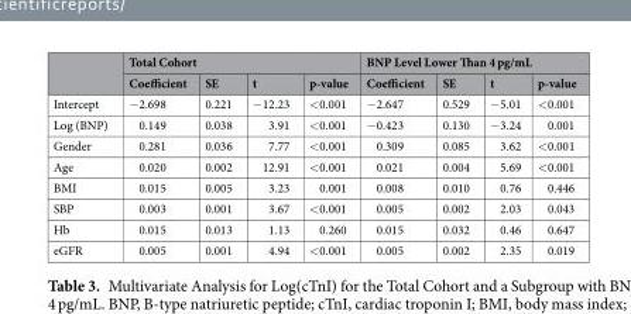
<table><thead><tr><td rowspan="2"></td><td colspan="4">Total Cohort</td><td colspan="4">BNP Level Lower Than 4 pg/mL</td></tr><tr><td>Coefficient</td><td>SE</td><td>t</td><td>p-value</td><td>Coefficient</td><td>SE</td><td>t</td><td>p-value</td></tr></thead><tbody><tr><td>Intercept</td><td>−2.698</td><td>0.221</td><td>−12.23</td><td>&lt;0.001</td><td>−2.647</td><td>0.529</td><td>−5.01</td><td>&lt;0.001</td></tr><tr><td>Log (BNP)</td><td>0.149</td><td>0.038</td><td>3.91</td><td>&lt;0.001</td><td>−0.423</td><td>0.130</td><td>−3.24</td><td>0.001</td></tr><tr><td>Gender</td><td>0.281</td><td>0.036</td><td>7.77</td><td>&lt;0.001</td><td>0.309</td><td>0.085</td><td>3.62</td><td>&lt;0.001</td></tr><tr><td>Age</td><td>0.020</td><td>0.002</td><td>12.91</td><td>&lt;0.001</td><td>0.021</td><td>0.004</td><td>5.69</td><td>&lt;0.001</td></tr><tr><td>BMI</td><td>0.015</td><td>0.005</td><td>3.23</td><td>0.001</td><td>0.008</td><td>0.010</td><td>0.76</td><td>0.446</td></tr><tr><td>SBP</td><td>0.003</td><td>0.001</td><td>3.67</td><td>&lt;0.001</td><td>0.005</td><td>0.002</td><td>2.03</td><td>0.043</td></tr><tr><td>Hb</td><td>0.015</td><td>0.013</td><td>1.13</td><td>0.260</td><td>0.015</td><td>0.032</td><td>0.46</td><td>0.647</td></tr><tr><td>eGFR</td><td>0.005</td><td>0.001</td><td>4.94</td><td>&lt;0.001</td><td>0.005</td><td>0.002</td><td>2.35</td><td>0.019</td></tr></tbody></table>